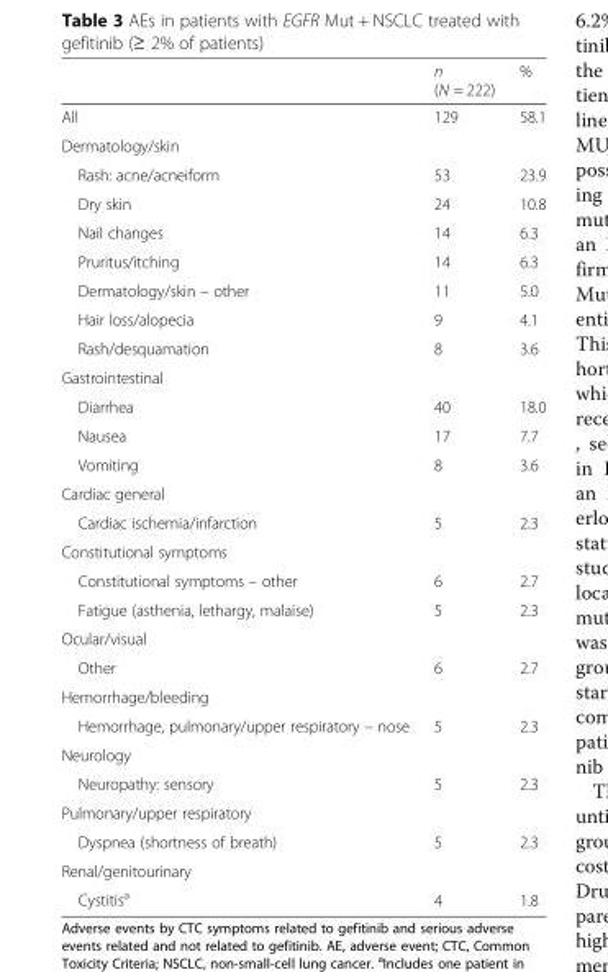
<table><thead><tr><td></td><td>n (N = 222)</td><td>%</td></tr></thead><tbody><tr><td>All</td><td>129</td><td>58.1</td></tr><tr><td colspan="3">Dermatology/skin</td></tr><tr><td>Rash: acne/acneiform</td><td>53</td><td>23.9</td></tr><tr><td>Dry skin</td><td>24</td><td>10.8</td></tr><tr><td>Nail changes</td><td>14</td><td>6.3</td></tr><tr><td>Pruritus/itching</td><td>14</td><td>6.3</td></tr><tr><td>Dermatology/skin – other</td><td>11</td><td>5.0</td></tr><tr><td>Hair loss/alopecia</td><td>9</td><td>4.1</td></tr><tr><td>Rash/desquamation</td><td>8</td><td>3.6</td></tr><tr><td colspan="3">Gastrointestinal</td></tr><tr><td>Diarrhea</td><td>40</td><td>18.0</td></tr><tr><td>Nausea</td><td>17</td><td>7.7</td></tr><tr><td>Vomiting</td><td>8</td><td>3.6</td></tr><tr><td colspan="3">Cardiac general</td></tr><tr><td>Cardiac ischemia/infarction</td><td>5</td><td>2.3</td></tr><tr><td colspan="3">Constitutional symptoms</td></tr><tr><td>Constitutional symptoms – other</td><td>6</td><td>2.7</td></tr><tr><td>Fatigue (asthenia, lethargy, malaise)</td><td>5</td><td>2.3</td></tr><tr><td colspan="3">Ocular/visual</td></tr><tr><td>Other</td><td>6</td><td>2.7</td></tr><tr><td colspan="3">Hemorrhage/bleeding</td></tr><tr><td>Hemorrhage, pulmonary/upper respiratory – nose</td><td>5</td><td>2.3</td></tr><tr><td colspan="3">Neurology</td></tr><tr><td>Neuropathy: sensory</td><td>5</td><td>2.3</td></tr><tr><td colspan="3">Pulmonary/upper respiratory</td></tr><tr><td>Dyspnea (shortness of breath)</td><td>5</td><td>2.3</td></tr><tr><td colspan="3">Renal/genitourinary</td></tr><tr><td>Cystitis<sup>a</sup></td><td>4</td><td>1.8</td></tr></tbody></table>